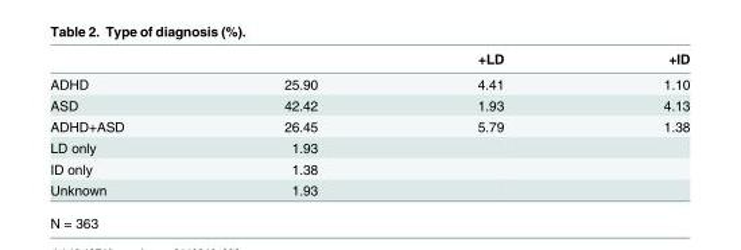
<table><thead><tr><td></td><td></td><td>+LD</td><td>+ID</td></tr></thead><tbody><tr><td>ADHD</td><td>25.90</td><td>4.41</td><td>1.10</td></tr><tr><td>ASD</td><td>42.42</td><td>1.93</td><td>4.13</td></tr><tr><td>ADHD+ASD</td><td>26.45</td><td>5.79</td><td>1.38</td></tr><tr><td>LD only</td><td>1.93</td><td></td><td></td></tr><tr><td>ID only</td><td>1.38</td><td></td><td></td></tr><tr><td>Unknown</td><td>1.93</td><td></td><td></td></tr></tbody></table>